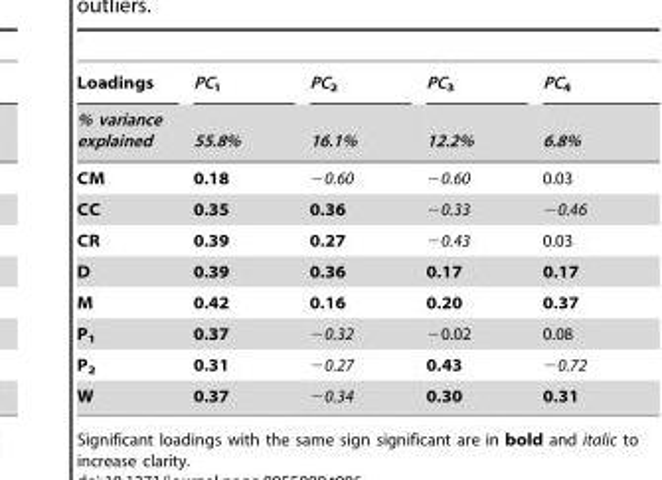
<table><thead><tr><td rowspan="2">Loadings % variance explained</td><td rowspan="2">PC<sub>1</sub> 55.8%</td><td rowspan="2">PC<sub>2</sub> 16.1%</td><td rowspan="2">PC<sub>3</sub> 12.2%</td><td rowspan="2">PC<sub>4</sub> 6.8%</td></tr><tr></tr></thead><tbody><tr><td>CM</td><td>0.18</td><td>−0.60</td><td>−0.60</td><td>0.03</td></tr><tr><td>CC</td><td>0.35</td><td>0.36</td><td>−0.33</td><td>−0.46</td></tr><tr><td>CR</td><td>0.39</td><td>0.27</td><td>−0.43</td><td>0.03</td></tr><tr><td>D</td><td>0.39</td><td>0.36</td><td>0.17</td><td>0.17</td></tr><tr><td>M</td><td>0.42</td><td>0.16</td><td>0.20</td><td>0.37</td></tr><tr><td>P<sub>1</sub></td><td>0.37</td><td>−0.32</td><td>−0.02</td><td>0.08</td></tr><tr><td>P<sub>2</sub></td><td>0.31</td><td>−0.27</td><td>0.43</td><td>−0.72</td></tr><tr><td>W</td><td>0.37</td><td>−0.34</td><td>0.30</td><td>0.31</td></tr></tbody></table>